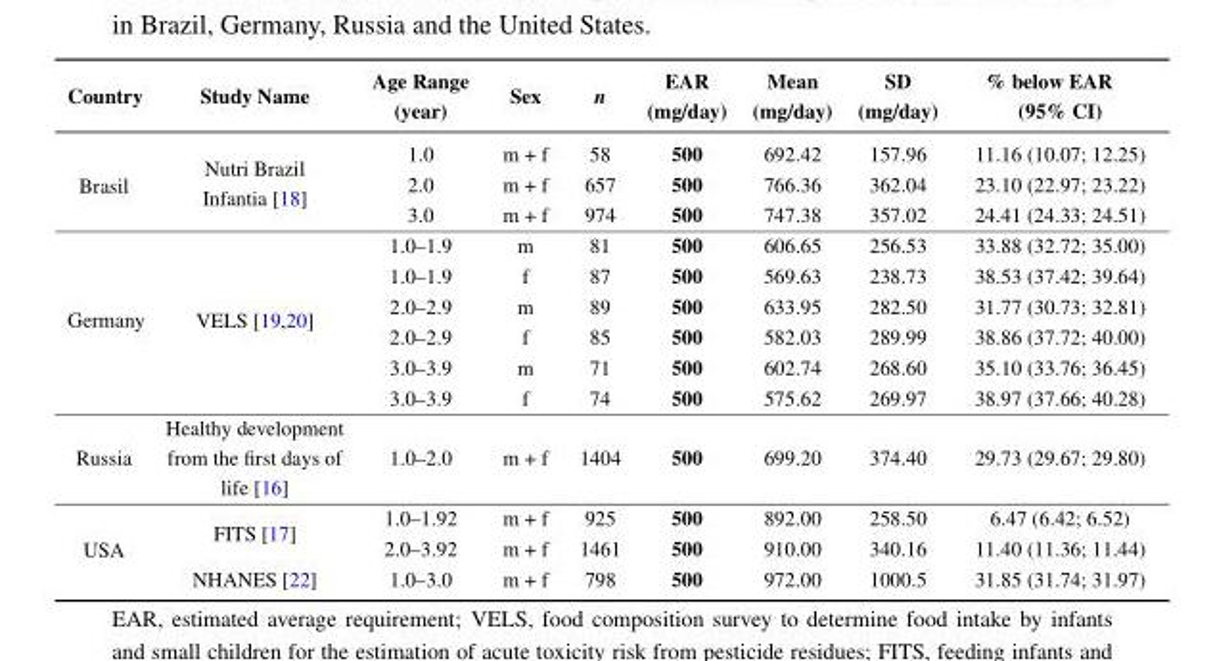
<table><thead><tr><td>Country</td><td>Study Name</td><td>Age Range (year)</td><td>Sex</td><td>n</td><td>EAR (mg/day)</td><td>Mean (mg/day)</td><td>SD (mg/day)</td><td>% below EAR (95% CI)</td></tr></thead><tbody><tr><td rowspan="3">Brasil</td><td rowspan="3">Nutri Brazil Infantia [18]</td><td>1.0</td><td>m + f</td><td>58</td><td>500</td><td>692.42</td><td>157.96</td><td>11.16 (10.07; 12.25)</td></tr><tr><td>2.0</td><td>m + f</td><td>657</td><td>500</td><td>766.36</td><td>362.04</td><td>23.10 (22.97; 23.22)</td></tr><tr><td>3.0</td><td>m + f</td><td>974</td><td>500</td><td>747.38</td><td>357.02</td><td>24.41 (24.33; 24.51)</td></tr><tr><td rowspan="6">Germany</td><td rowspan="6">VELS [19,20]</td><td>1.0–1.9</td><td>m</td><td>81</td><td>500</td><td>606.65</td><td>256.53</td><td>33.88 (32.72; 35.00)</td></tr><tr><td>1.0–1.9</td><td>f</td><td>87</td><td>500</td><td>569.63</td><td>238.73</td><td>38.53 (37.42; 39.64)</td></tr><tr><td>2.0–2.9</td><td>m</td><td>89</td><td>500</td><td>633.95</td><td>282.50</td><td>31.77 (30.73; 32.81)</td></tr><tr><td>2.0–2.9</td><td>f</td><td>85</td><td>500</td><td>582.03</td><td>289.99</td><td>38.86 (37.72; 40.00)</td></tr><tr><td>3.0–3.9</td><td>m</td><td>71</td><td>500</td><td>602.74</td><td>268.60</td><td>35.10 (33.76; 36.45)</td></tr><tr><td>3.0–3.9</td><td>f</td><td>74</td><td>500</td><td>575.62</td><td>269.97</td><td>38.97 (37.66; 40.28)</td></tr><tr><td>Russia</td><td>Healthy development from the first days of life [16]</td><td>1.0–2.0</td><td>m + f</td><td>1404</td><td>500</td><td>699.20</td><td>374.40</td><td>29.73 (29.67; 29.80)</td></tr><tr><td rowspan="3">USA</td><td rowspan="2">FITS [17]</td><td>1.0–1.92</td><td>m + f</td><td>925</td><td>500</td><td>892.00</td><td>258.50</td><td>6.47 (6.42; 6.52)</td></tr><tr><td>2.0–3.92</td><td>m + f</td><td>1461</td><td>500</td><td>910.00</td><td>340.16</td><td>11.40 (11.36; 11.44)</td></tr><tr><td>NHANES [22]</td><td>1.0–3.0</td><td>m + f</td><td>798</td><td>500</td><td>972.00</td><td>1000.5</td><td>31.85 (31.74; 31.97)</td></tr></tbody></table>